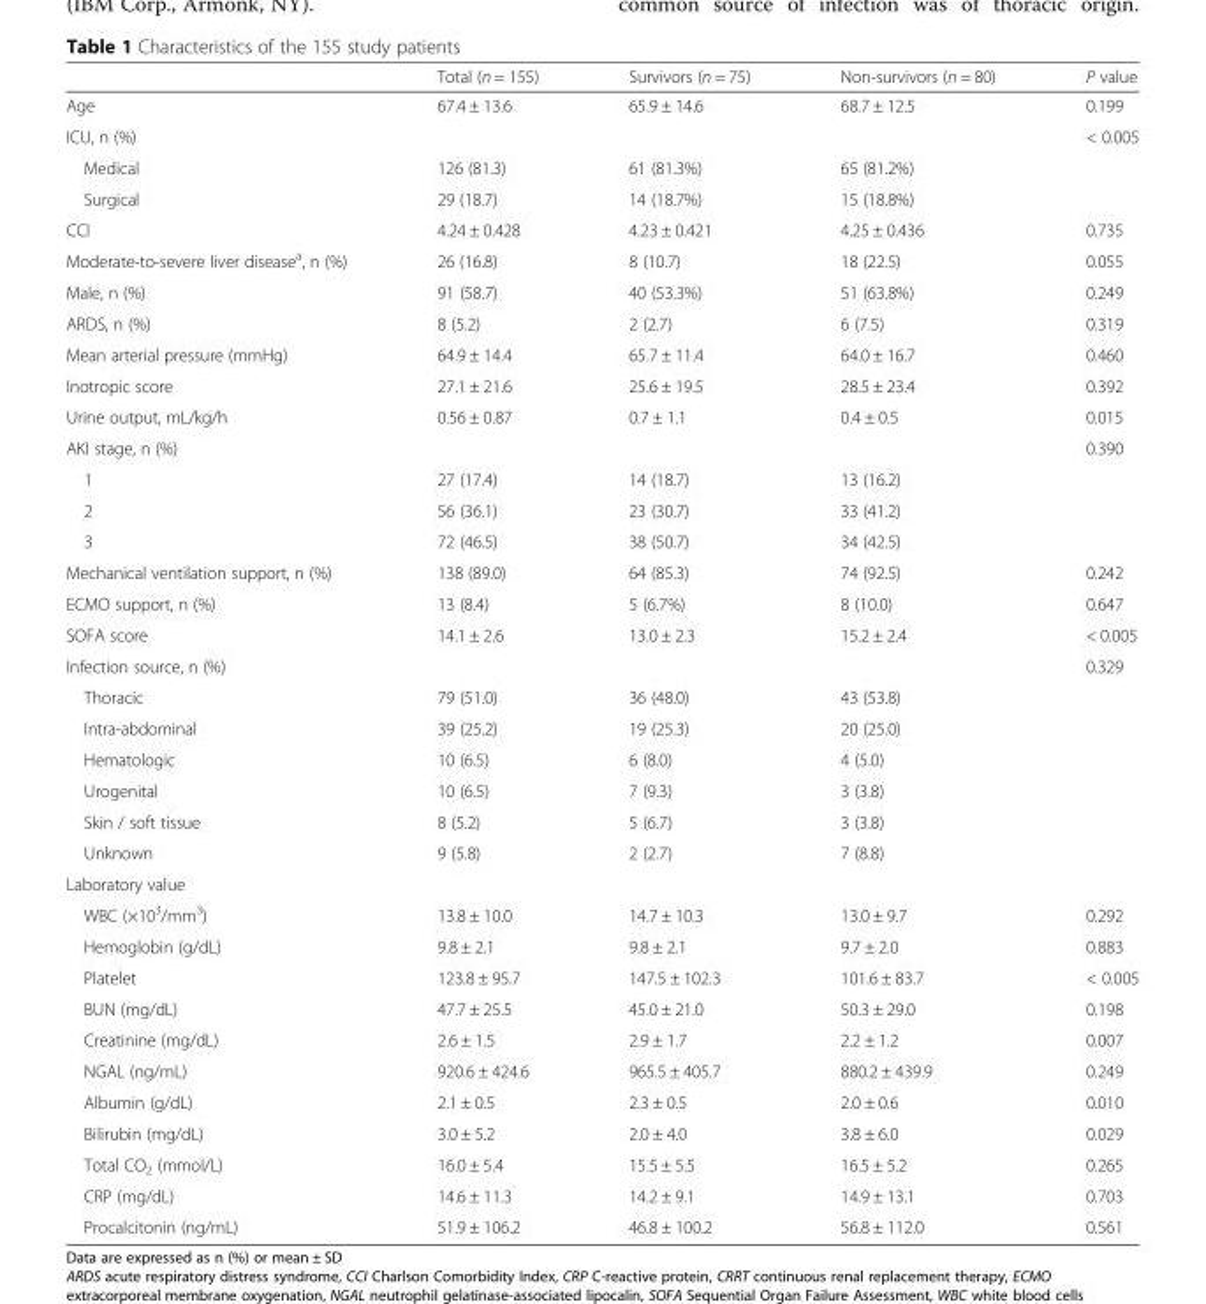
<table><thead><tr><td></td><td>Total (n = 155)</td><td>Survivors (n = 75)</td><td>Non-survivors (n = 80)</td><td>P value</td></tr></thead><tbody><tr><td>Age</td><td>67.4 ± 13.6</td><td>65.9 ± 14.6</td><td>68.7 ± 12.5</td><td>0.199</td></tr><tr><td>ICU, n (%)</td><td></td><td></td><td></td><td>&lt; 0.005</td></tr><tr><td>Medical</td><td>126 (81.3)</td><td>61 (81.3%)</td><td>65 (81.2%)</td><td></td></tr><tr><td>Surgical</td><td>29 (18.7)</td><td>14 (18.7%)</td><td>15 (18.8%)</td><td></td></tr><tr><td>CCI</td><td>4.24 ± 0.428</td><td>4.23 ± 0.421</td><td>4.25 ± 0.436</td><td>0.735</td></tr><tr><td>Moderate-to-severe liver disease<sup>a</sup>, n (%)</td><td>26 (16.8)</td><td>8 (10.7)</td><td>18 (22.5)</td><td>0.055</td></tr><tr><td>Male, n (%)</td><td>91 (58.7)</td><td>40 (53.3%)</td><td>51 (63.8%)</td><td>0.249</td></tr><tr><td>ARDS, n (%)</td><td>8 (5.2)</td><td>2 (2.7)</td><td>6 (7.5)</td><td>0.319</td></tr><tr><td>Mean arterial pressure (mmHg)</td><td>64.9 ± 14.4</td><td>65.7 ± 11.4</td><td>64.0 ± 16.7</td><td>0.460</td></tr><tr><td>Inotropic score</td><td>27.1 ± 21.6</td><td>25.6 ± 19.5</td><td>28.5 ± 23.4</td><td>0.392</td></tr><tr><td>Urine output, mL/kg/h</td><td>0.56 ± 0.87</td><td>0.7 ± 1.1</td><td>0.4 ± 0.5</td><td>0.015</td></tr><tr><td>AKI stage, n (%)</td><td></td><td></td><td></td><td>0.390</td></tr><tr><td>1</td><td>27 (17.4)</td><td>14 (18.7)</td><td>13 (16.2)</td><td></td></tr><tr><td>2</td><td>56 (36.1)</td><td>23 (30.7)</td><td>33 (41.2)</td><td></td></tr><tr><td>3</td><td>72 (46.5)</td><td>38 (50.7)</td><td>34 (42.5)</td><td></td></tr><tr><td>Mechanical ventilation support, n (%)</td><td>138 (89.0)</td><td>64 (85.3)</td><td>74 (92.5)</td><td>0.242</td></tr><tr><td>ECMO support, n (%)</td><td>13 (8.4)</td><td>5 (6.7%)</td><td>8 (10.0)</td><td>0.647</td></tr><tr><td>SOFA score</td><td>14.1 ± 2.6</td><td>13.0 ± 2.3</td><td>15.2 ± 2.4</td><td>&lt; 0.005</td></tr><tr><td>Infection source, n (%)</td><td></td><td></td><td></td><td>0.329</td></tr><tr><td>Thoracic</td><td>79 (51.0)</td><td>36 (48.0)</td><td>43 (53.8)</td><td></td></tr><tr><td>Intra-abdominal</td><td>39 (25.2)</td><td>19 (25.3)</td><td>20 (25.0)</td><td></td></tr><tr><td>Hematologic</td><td>10 (6.5)</td><td>6 (8.0)</td><td>4 (5.0)</td><td></td></tr><tr><td>Urogenital</td><td>10 (6.5)</td><td>7 (9.3)</td><td>3 (3.8)</td><td></td></tr><tr><td>Skin / soft tissue</td><td>8 (5.2)</td><td>5 (6.7)</td><td>3 (3.8)</td><td></td></tr><tr><td>Unknown</td><td>9 (5.8)</td><td>2 (2.7)</td><td>7 (8.8)</td><td></td></tr><tr><td colspan="5">Laboratory value</td></tr><tr><td>WBC (×10<sup>3</sup>/mm<sup>3</sup>)</td><td>13.8 ± 10.0</td><td>14.7 ± 10.3</td><td>13.0 ± 9.7</td><td>0.292</td></tr><tr><td>Hemoglobin (g/dL)</td><td>9.8 ± 2.1</td><td>9.8 ± 2.1</td><td>9.7 ± 2.0</td><td>0.883</td></tr><tr><td>Platelet</td><td>123.8 ± 95.7</td><td>147.5 ± 102.3</td><td>101.6 ± 83.7</td><td>&lt; 0.005</td></tr><tr><td>BUN (mg/dL)</td><td>47.7 ± 25.5</td><td>45.0 ± 21.0</td><td>50.3 ± 29.0</td><td>0.198</td></tr><tr><td>Creatinine (mg/dL)</td><td>2.6 ± 1.5</td><td>2.9 ± 1.7</td><td>2.2 ± 1.2</td><td>0.007</td></tr><tr><td>NGAL (ng/mL)</td><td>920.6 ± 424.6</td><td>965.5 ± 405.7</td><td>880.2 ± 439.9</td><td>0.249</td></tr><tr><td>Albumin (g/dL)</td><td>2.1 ± 0.5</td><td>2.3 ± 0.5</td><td>2.0 ± 0.6</td><td>0.010</td></tr><tr><td>Bilirubin (mg/dL)</td><td>3.0 ± 5.2</td><td>2.0 ± 4.0</td><td>3.8 ± 6.0</td><td>0.029</td></tr><tr><td>Total CO<sub>2</sub> (mmol/L)</td><td>16.0 ± 5.4</td><td>15.5 ± 5.5</td><td>16.5 ± 5.2</td><td>0.265</td></tr><tr><td>CRP (mg/dL)</td><td>14.6 ± 11.3</td><td>14.2 ± 9.1</td><td>14.9 ± 13.1</td><td>0.703</td></tr><tr><td>Procalcitonin (ng/mL)</td><td>51.9 ± 106.2</td><td>46.8 ± 100.2</td><td>56.8 ± 112.0</td><td>0.561</td></tr></tbody></table>